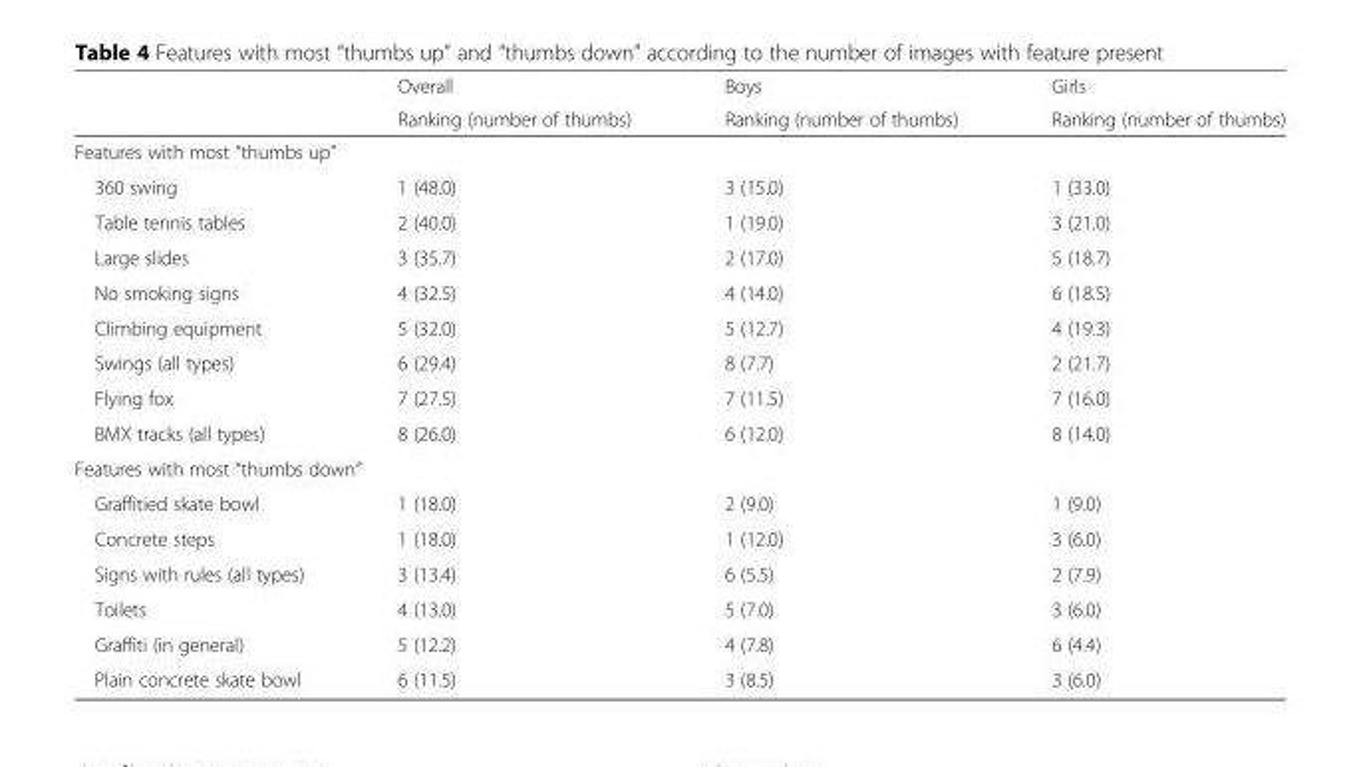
<table><thead><tr><td rowspan="2"></td><td rowspan="2">Overall Ranking (number of thumbs)</td><td rowspan="2">Boys Ranking (number of thumbs)</td><td rowspan="2">Girls Ranking (number of thumbs)</td></tr><tr></tr></thead><tbody><tr><td colspan="4">Features with most “thumbs up”</td></tr><tr><td>360 swing</td><td>1 (48.0)</td><td>3 (15.0)</td><td>1 (33.0)</td></tr><tr><td>Table tennis tables</td><td>2 (40.0)</td><td>1 (19.0)</td><td>3 (21.0)</td></tr><tr><td>Large slides</td><td>3 (35.7)</td><td>2 (17.0)</td><td>5 (18.7)</td></tr><tr><td>No smoking signs</td><td>4 (32.5)</td><td>4 (14.0)</td><td>6 (18.5)</td></tr><tr><td>Climbing equipment</td><td>5 (32.0)</td><td>5 (12.7)</td><td>4 (19.3)</td></tr><tr><td>Swings (all types)</td><td>6 (29.4)</td><td>8 (7.7)</td><td>2 (21.7)</td></tr><tr><td>Flying fox</td><td>7 (27.5)</td><td>7 (11.5)</td><td>7 (16.0)</td></tr><tr><td>BMX tracks (all types)</td><td>8 (26.0)</td><td>6 (12.0)</td><td>8 (14.0)</td></tr><tr><td colspan="4">Features with most “thumbs down”</td></tr><tr><td>Graffitied skate bowl</td><td>1 (18.0)</td><td>2 (9.0)</td><td>1 (9.0)</td></tr><tr><td>Concrete steps</td><td>1 (18.0)</td><td>1 (12.0)</td><td>3 (6.0)</td></tr><tr><td>Signs with rules (all types)</td><td>3 (13.4)</td><td>6 (5.5)</td><td>2 (7.9)</td></tr><tr><td>Toilets</td><td>4 (13.0)</td><td>5 (7.0)</td><td>3 (6.0)</td></tr><tr><td>Graffiti (in general)</td><td>5 (12.2)</td><td>4 (7.8)</td><td>6 (4.4)</td></tr><tr><td>Plain concrete skate bowl</td><td>6 (11.5)</td><td>3 (8.5)</td><td>3 (6.0)</td></tr></tbody></table>